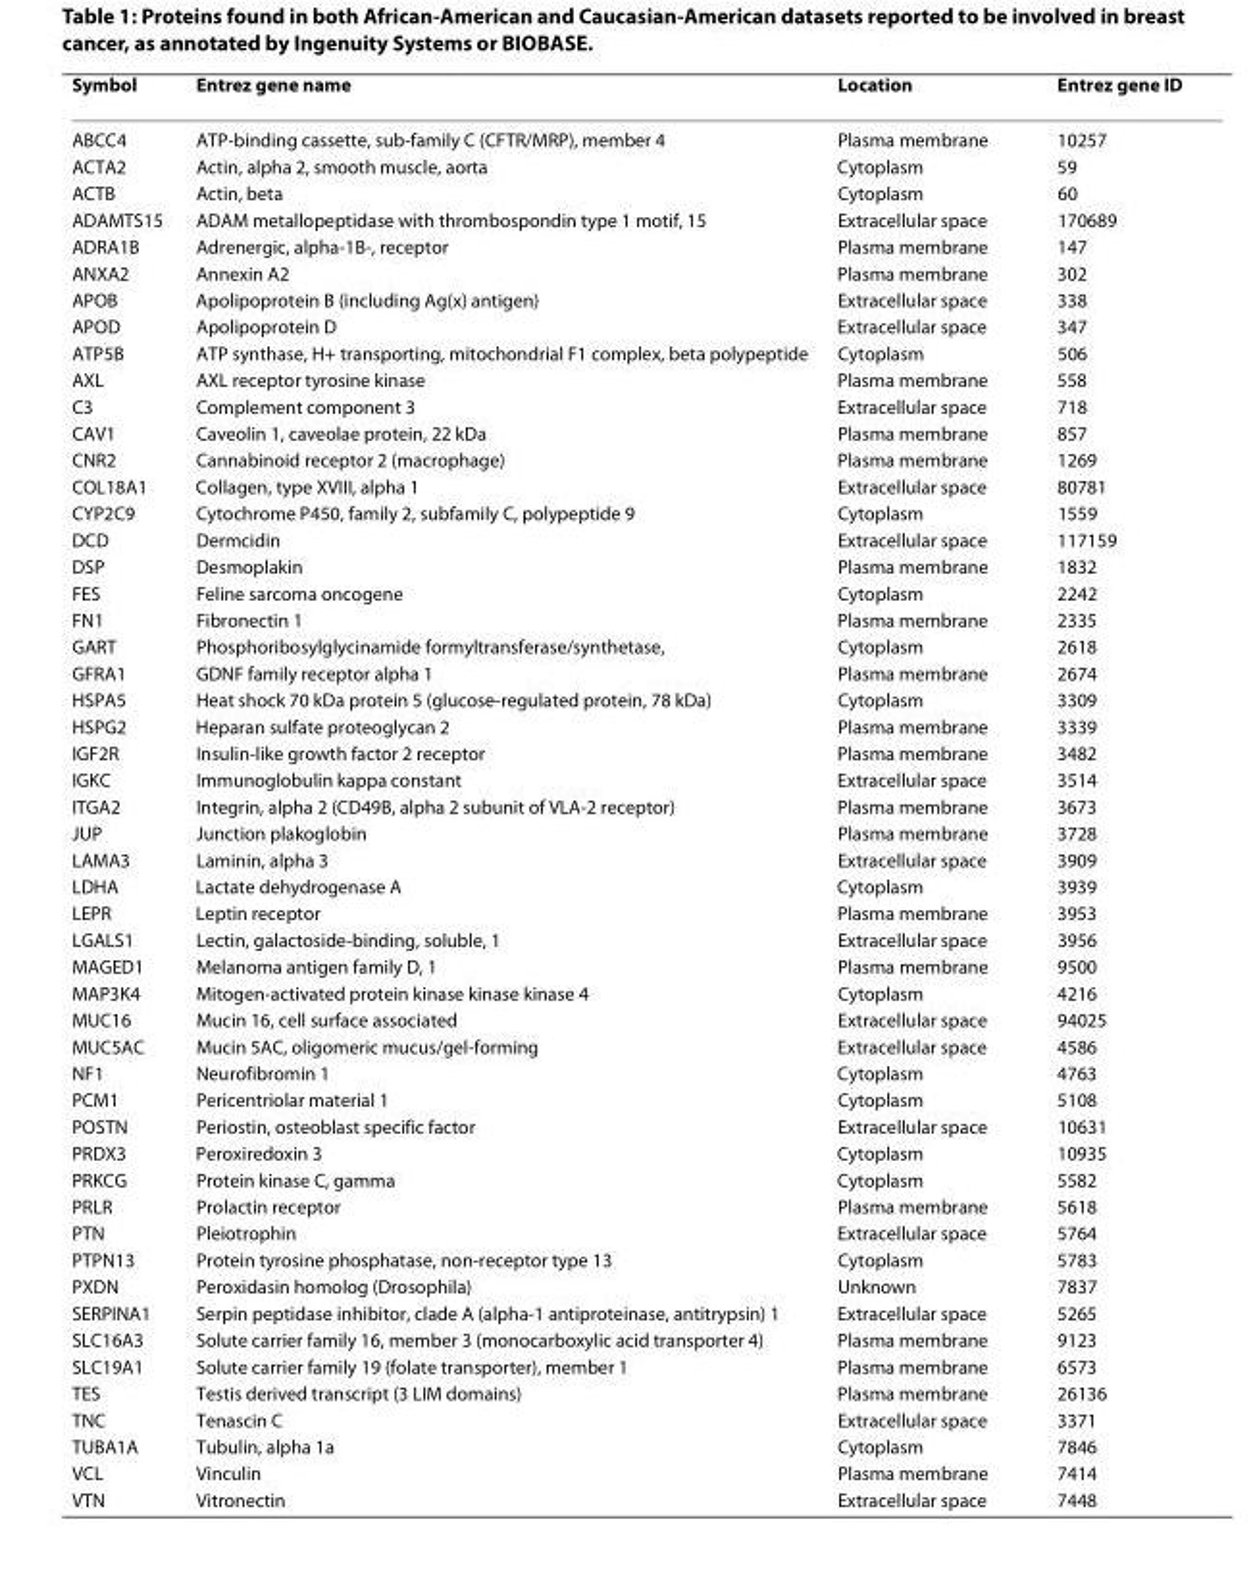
<table><thead><tr><td>Symbol</td><td>Entrez gene name</td><td>Location</td><td>Entrez gene ID</td></tr></thead><tbody><tr><td>ABCC4</td><td>ATP-binding cassette, sub-family C (CFTR/MRP), member 4</td><td>Plasma membrane</td><td>10257</td></tr><tr><td>ACTA2</td><td>Actin, alpha 2, smooth muscle, aorta</td><td>Cytoplasm</td><td>59</td></tr><tr><td>ACTB</td><td>Actin, beta</td><td>Cytoplasm</td><td>60</td></tr><tr><td>ADAMTS15</td><td>ADAM metallopeptidase with thrombospondin type 1 motif, 15</td><td>Extracellular space</td><td>170689</td></tr><tr><td>ADRA1B</td><td>Adrenergic, alpha-1B-, receptor</td><td>Plasma membrane</td><td>147</td></tr><tr><td>ANXA2</td><td>Annexin A2</td><td>Plasma membrane</td><td>302</td></tr><tr><td>APOB</td><td>Apolipoprotein B (including Ag(x) antigen)</td><td>Extracellular space</td><td>338</td></tr><tr><td>APOD</td><td>Apolipoprotein D</td><td>Extracellular space</td><td>347</td></tr><tr><td>ATP5B</td><td>ATP synthase, H+ transporting, mitochondrial F1 complex, beta polypeptide</td><td>Cytoplasm</td><td>506</td></tr><tr><td>AXL</td><td>AXL receptor tyrosine kinase</td><td>Plasma membrane</td><td>558</td></tr><tr><td>C3</td><td>Complement component 3</td><td>Extracellular space</td><td>718</td></tr><tr><td>CAV1</td><td>Caveolin 1, caveolae protein, 22 kDa</td><td>Plasma membrane</td><td>857</td></tr><tr><td>CNR2</td><td>Cannabinoid receptor 2 (macrophage)</td><td>Plasma membrane</td><td>1269</td></tr><tr><td>COL18A1</td><td>Collagen, type XVIII, alpha 1</td><td>Extracellular space</td><td>80781</td></tr><tr><td>CYP2C9</td><td>Cytochrome P450, family 2, subfamily C, polypeptide 9</td><td>Cytoplasm</td><td>1559</td></tr><tr><td>DCD</td><td>Dermcidin</td><td>Extracellular space</td><td>117159</td></tr><tr><td>DSP</td><td>Desmoplakin</td><td>Plasma membrane</td><td>1832</td></tr><tr><td>FES</td><td>Feline sarcoma oncogene</td><td>Cytoplasm</td><td>2242</td></tr><tr><td>FN1</td><td>Fibronectin 1</td><td>Plasma membrane</td><td>2335</td></tr><tr><td>GART</td><td>Phosphoribosylglycinamide formyltransferase/synthetase,</td><td>Cytoplasm</td><td>2618</td></tr><tr><td>GFRA1</td><td>GDNF family receptor alpha 1</td><td>Plasma membrane</td><td>2674</td></tr><tr><td>HSPA5</td><td>Heat shock 70 kDa protein 5 (glucose-regulated protein, 78 kDa)</td><td>Cytoplasm</td><td>3309</td></tr><tr><td>HSPG2</td><td>Heparan sulfate proteoglycan 2</td><td>Plasma membrane</td><td>3339</td></tr><tr><td>IGF2R</td><td>Insulin-like growth factor 2 receptor</td><td>Plasma membrane</td><td>3482</td></tr><tr><td>IGKC</td><td>Immunoglobulin kappa constant</td><td>Extracellular space</td><td>3514</td></tr><tr><td>ITGA2</td><td>Integrin, alpha 2 (CD49B, alpha 2 subunit of VLA-2 receptor)</td><td>Plasma membrane</td><td>3673</td></tr><tr><td>JUP</td><td>Junction plakoglobin</td><td>Plasma membrane</td><td>3728</td></tr><tr><td>LAMA3</td><td>Laminin, alpha 3</td><td>Extracellular space</td><td>3909</td></tr><tr><td>LDHA</td><td>Lactate dehydrogenase A</td><td>Cytoplasm</td><td>3939</td></tr><tr><td>LEPR</td><td>Leptin receptor</td><td>Plasma membrane</td><td>3953</td></tr><tr><td>LGALS1</td><td>Lectin, galactoside-binding, soluble, 1</td><td>Extracellular space</td><td>3956</td></tr><tr><td>MAGED1</td><td>Melanoma antigen family D, 1</td><td>Plasma membrane</td><td>9500</td></tr><tr><td>MAP3K4</td><td>Mitogen-activated protein kinase kinase kinase 4</td><td>Cytoplasm</td><td>4216</td></tr><tr><td>MUC16</td><td>Mucin 16, cell surface associated</td><td>Extracellular space</td><td>94025</td></tr><tr><td>MUC5AC</td><td>Mucin 5AC, oligomeric mucus/gel-forming</td><td>Extracellular space</td><td>4586</td></tr><tr><td>NF1</td><td>Neurofibromin 1</td><td>Cytoplasm</td><td>4763</td></tr><tr><td>PCM1</td><td>Pericentriolar material 1</td><td>Cytoplasm</td><td>5108</td></tr><tr><td>POSTN</td><td>Periostin, osteoblast specific factor</td><td>Extracellular space</td><td>10631</td></tr><tr><td>PRDX3</td><td>Peroxiredoxin 3</td><td>Cytoplasm</td><td>10935</td></tr><tr><td>PRKCG</td><td>Protein kinase C, gamma</td><td>Cytoplasm</td><td>5582</td></tr><tr><td>PRLR</td><td>Prolactin receptor</td><td>Plasma membrane</td><td>5618</td></tr><tr><td>PTN</td><td>Pleiotrophin</td><td>Extracellular space</td><td>5764</td></tr><tr><td>PTPN13</td><td>Protein tyrosine phosphatase, non-receptor type 13</td><td>Cytoplasm</td><td>5783</td></tr><tr><td>PXDN</td><td>Peroxidasin homolog (Drosophila)</td><td>Unknown</td><td>7837</td></tr><tr><td>SERPINA1</td><td>Serpin peptidase inhibitor, clade A (alpha-1 antiproteinase, antitrypsin) 1</td><td>Extracellular space</td><td>5265</td></tr><tr><td>SLC16A3</td><td>Solute carrier family 16, member 3 (monocarboxylic acid transporter 4)</td><td>Plasma membrane</td><td>9123</td></tr><tr><td>SLC19A1</td><td>Solute carrier family 19 (folate transporter), member 1</td><td>Plasma membrane</td><td>6573</td></tr><tr><td>TES</td><td>Testis derived transcript (3 LIM domains)</td><td>Plasma membrane</td><td>26136</td></tr><tr><td>TNC</td><td>Tenascin C</td><td>Extracellular space</td><td>3371</td></tr><tr><td>TUBA1A</td><td>Tubulin, alpha 1a</td><td>Cytoplasm</td><td>7846</td></tr><tr><td>VCL</td><td>Vinculin</td><td>Plasma membrane</td><td>7414</td></tr><tr><td>VTN</td><td>Vitronectin</td><td>Extracellular space</td><td>7448</td></tr></tbody></table>